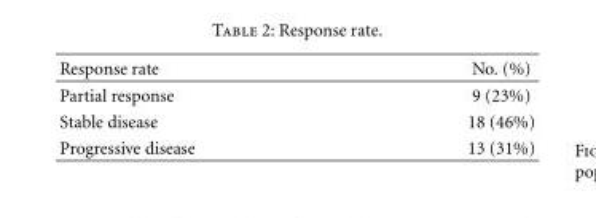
<table><thead><tr><td>Response rate</td><td>No. (%)</td></tr></thead><tbody><tr><td>Partial response</td><td>9 (23%)</td></tr><tr><td>Stable disease</td><td>18 (46%)</td></tr><tr><td>Progressive disease</td><td>13 (31%)</td></tr></tbody></table>